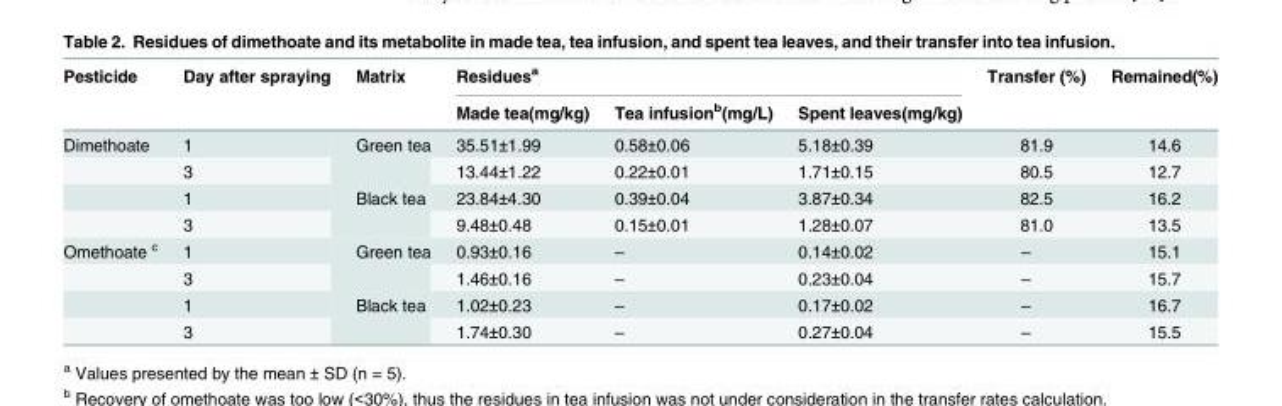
<table><thead><tr><td rowspan="2">Pesticide</td><td rowspan="2">Day after spraying</td><td rowspan="2">Matrix</td><td colspan="3">Residues<sup>a</sup></td><td rowspan="2">Transfer (%)</td><td rowspan="2">Remained(%)</td></tr><tr><td>Made tea(mg/kg)</td><td>Tea infusion<sup>b</sup>(mg/L)</td><td>Spent leaves(mg/kg)</td></tr></thead><tbody><tr><td rowspan="4">Dimethoate</td><td>1</td><td rowspan="2">Green tea</td><td>35.51±1.99</td><td>0.58±0.06</td><td>5.18±0.39</td><td>81.9</td><td>14.6</td></tr><tr><td>3</td><td>13.44±1.22</td><td>0.22±0.01</td><td>1.71±0.15</td><td>80.5</td><td>12.7</td></tr><tr><td>1</td><td rowspan="2">Black tea</td><td>23.84±4.30</td><td>0.39±0.04</td><td>3.87±0.34</td><td>82.5</td><td>16.2</td></tr><tr><td>3</td><td>9.48±0.48</td><td>0.15±0.01</td><td>1.28±0.07</td><td>81.0</td><td>13.5</td></tr><tr><td rowspan="4">Omethoate <sup>c</sup></td><td>1</td><td rowspan="2">Green tea</td><td>0.93±0.16</td><td>–</td><td>0.14±0.02</td><td>–</td><td>15.1</td></tr><tr><td>3</td><td>1.46±0.16</td><td>–</td><td>0.23±0.04</td><td>–</td><td>15.7</td></tr><tr><td>1</td><td rowspan="2">Black tea</td><td>1.02±0.23</td><td>–</td><td>0.17±0.02</td><td>–</td><td>16.7</td></tr><tr><td>3</td><td>1.74±0.30</td><td>–</td><td>0.27±0.04</td><td>–</td><td>15.5</td></tr></tbody></table>